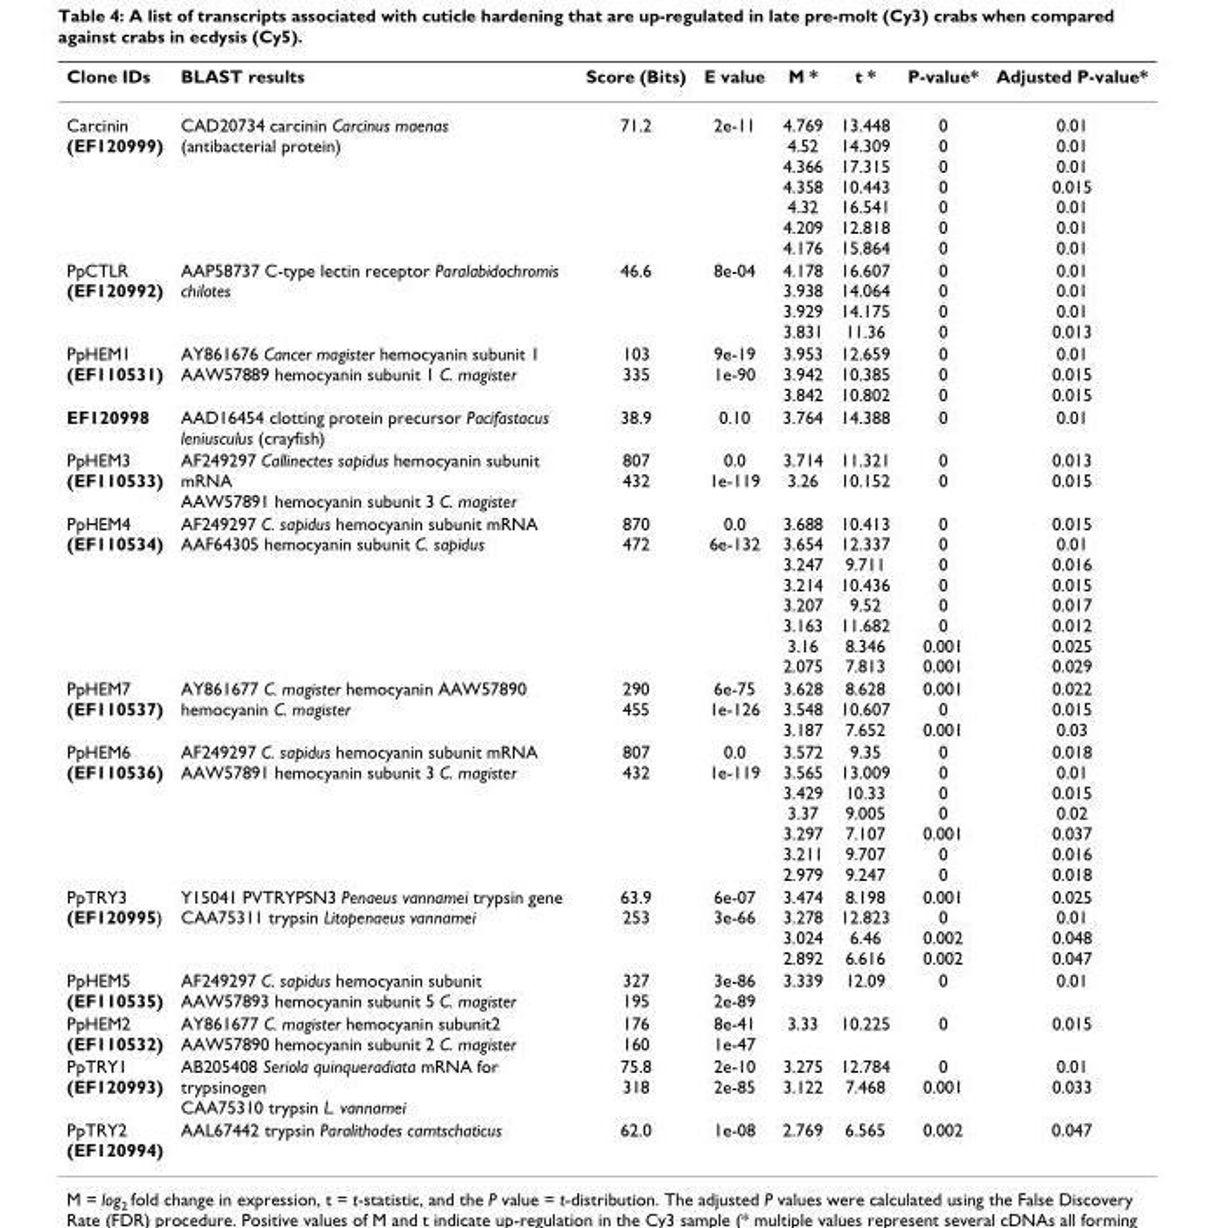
<table><thead><tr><td>Clone IDs</td><td>BLAST results</td><td>Score (Bits)</td><td>E value</td><td>M *</td><td>t *</td><td>P-value*</td><td>Adjusted P-value*</td></tr></thead><tbody><tr><td>Carcinin (EF120999)</td><td>CAD20734 carcinin Carcinus maenas (antibacterial protein)</td><td>71.2</td><td>2e-11</td><td>4.769 4.52 4.366 4.358 4.32 4.209 4.176</td><td>13.448 14.309 17.315 10.443 16.541 12.818 15.864</td><td>0 0 0 0 0 0 0</td><td>0.01 0.01 0.01 0.015 0.01 0.01 0.01</td></tr><tr><td>PpCTLR (EF120992)</td><td>AAP58737 C-type lectin receptor Paralabidochromis chilotes</td><td>46.6</td><td>8e-04</td><td>4.178 3.938 3.929 3.831</td><td>16.607 14.064 14.175 11.36</td><td>0 0 0 0</td><td>0.01 0.01 0.01 0.013</td></tr><tr><td>PpHEM1 (EF110531)</td><td>AY861676 Cancer magister hemocyanin subunit 1 AAW57889 hemocyanin subunit 1 C. magister</td><td>103 335</td><td>9e-19 1e-90</td><td>3.953 3.942 3.842</td><td>12.659 10.385 10.802</td><td>0 0 0</td><td>0.01 0.015 0.015</td></tr><tr><td>EF120998</td><td>AAD16454 clotting protein precursor Pacifastacus leniusculus (crayfish)</td><td>38.9</td><td>0.10</td><td>3.764</td><td>14.388</td><td>0</td><td>0.01</td></tr><tr><td>PpHEM3 (EF110533)</td><td>AF249297 Callinectes sapidus hemocyanin subunit mRNA AAW57891 hemocyanin subunit 3 C. magister</td><td>807 432</td><td>0.0 1e-119</td><td>3.714 3.26</td><td>11.321 10.152</td><td>0 0</td><td>0.013 0.015</td></tr><tr><td>PpHEM4 (EF110534)</td><td>AF249297 C. sapidus hemocyanin subunit mRNA AAF64305 hemocyanin subunit C. sapidus</td><td>870 472</td><td>0.0 6e-132</td><td>3.688 3.654 3.247 3.214 3.207 3.163 3.16 2.075</td><td>10.413 12.337 9.711 10.436 9.52 11.682 8.346 7.813</td><td>0 0 0 0 0 0 0.001 0.001</td><td>0.015 0.01 0.016 0.015 0.017 0.012 0.025 0.029</td></tr><tr><td>PpHEM7 (EF110537)</td><td>AY861677 C. magister hemocyanin AAW57890 hemocyanin C. magister</td><td>290 455</td><td>6e-75 1e-126</td><td>3.628 3.548 3.187</td><td>8.628 10.607 7.652</td><td>0.001 0 0.001</td><td>0.022 0.015 0.03</td></tr><tr><td>PpHEM6 (EF110536)</td><td>AF249297 C. sapidus hemocyanin subunit mRNA AAW57891 hemocyanin subunit 3 C. magister</td><td>807 432</td><td>0.0 1e-119</td><td>3.572 3.565 3.429 3.37 3.297 3.211 2.979</td><td>9.35 13.009 10.33 9.005 7.107 9.707 9.247</td><td>0 0 0 0 0.001 0 0</td><td>0.018 0.01 0.015 0.02 0.037 0.016 0.018</td></tr><tr><td>PpTRY3 (EF120995)</td><td>Y15041 PVTRYPSN3 Penaeus vannamei trypsin gene CAA75311 trypsin Litopenaeus vannamei</td><td>63.9 253</td><td>6e-07 3e-66</td><td>3.474 3.278 3.024 2.892</td><td>8.198 12.823 6.46 6.616</td><td>0.001 0 0.002 0.002</td><td>0.025 0.01 0.048 0.047</td></tr><tr><td>PpHEM5 (EF110535)</td><td>AF249297 C. sapidus hemocyanin subunit AAW57893 hemocyanin subunit 5 C. magister</td><td>327 195</td><td>3e-86 2e-89</td><td>3.339</td><td>12.09</td><td>0</td><td>0.01</td></tr><tr><td>PpHEM2 (EF110532)</td><td>AY861677 C. magister hemocyanin subunit2 AAW57890 hemocyanin subunit 2 C. magister</td><td>176 160</td><td>8e-41 1e-47</td><td>3.33</td><td>10.225</td><td>0</td><td>0.015</td></tr><tr><td>PpTRY1 (EF120993)</td><td>AB205408 Seriola quinqueradiata mRNA for trypsinogen CAA75310 trypsin L. vannamei</td><td>75.8 318</td><td>2e-10 2e-85</td><td>3.275 3.122</td><td>12.784 7.468</td><td>0 0.001</td><td>0.01 0.033</td></tr><tr><td>PpTRY2 (EF120994)</td><td>AAL67442 trypsin Paralithodes camtschaticus</td><td>62.0</td><td>1e-08</td><td>2.769</td><td>6.565</td><td>0.002</td><td>0.047</td></tr></tbody></table>